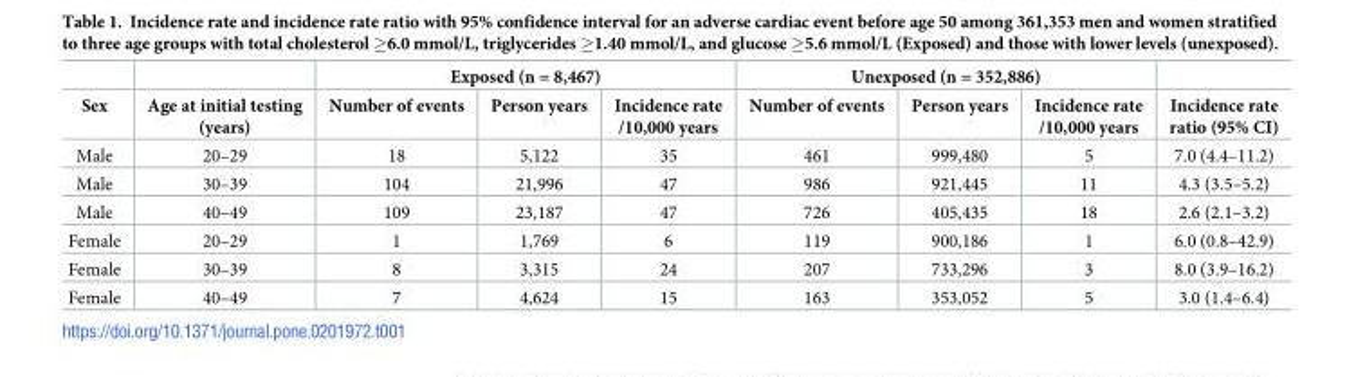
<table><thead><tr><td rowspan="2">Sex</td><td rowspan="2">Age at initial testing (years)</td><td colspan="3">Exposed (n = 8,467)</td><td colspan="3">Unexposed (n = 352,886)</td><td rowspan="2">Incidence rate ratio (95% CI)</td></tr><tr><td>Number of events</td><td>Person years</td><td>Incidence rate /10,000 years</td><td>Number of events</td><td>Person years</td><td>Incidence rate /10,000 years</td></tr></thead><tbody><tr><td>Male</td><td>20–29</td><td>18</td><td>5,122</td><td>35</td><td>461</td><td>999,480</td><td>5</td><td>7.0 (4.4–11.2)</td></tr><tr><td>Male</td><td>30–39</td><td>104</td><td>21,996</td><td>47</td><td>986</td><td>921,445</td><td>11</td><td>4.3 (3.5–5.2)</td></tr><tr><td>Male</td><td>40–49</td><td>109</td><td>23,187</td><td>47</td><td>726</td><td>405,435</td><td>18</td><td>2.6 (2.1–3.2)</td></tr><tr><td>Female</td><td>20–29</td><td>1</td><td>1,769</td><td>6</td><td>119</td><td>900,186</td><td>1</td><td>6.0 (0.8–42.9)</td></tr><tr><td>Female</td><td>30–39</td><td>8</td><td>3,315</td><td>24</td><td>207</td><td>733,296</td><td>3</td><td>8.0 (3.9–16.2)</td></tr><tr><td>Female</td><td>40–49</td><td>7</td><td>4,624</td><td>15</td><td>163</td><td>353,052</td><td>5</td><td>3.0 (1.4–6.4)</td></tr></tbody></table>